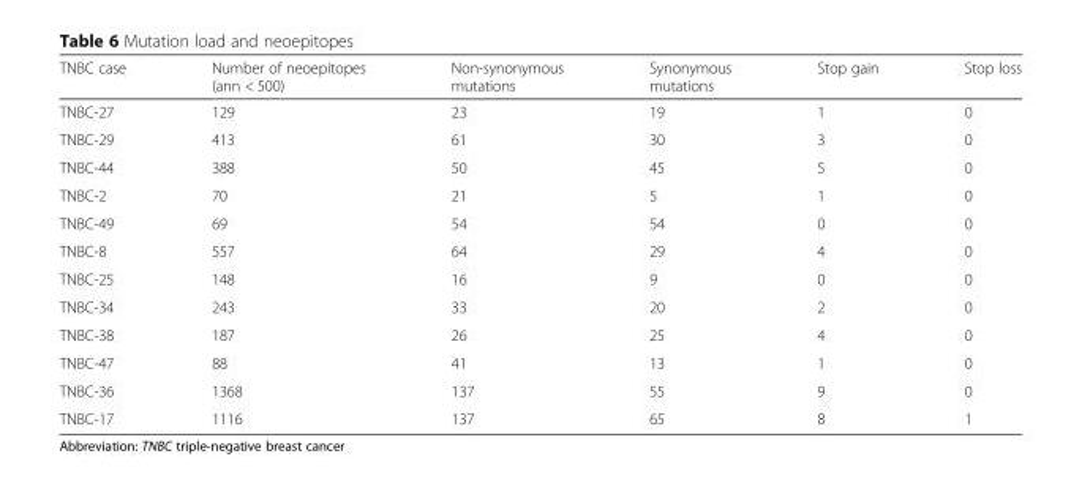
<table><thead><tr><td>TNBC case</td><td>Number of neoepitopes (ann &lt; 500)</td><td>Non-synonymous mutations</td><td>Synonymous mutations</td><td>Stop gain</td><td>Stop loss</td></tr></thead><tbody><tr><td>TNBC-27</td><td>129</td><td>23</td><td>19</td><td>1</td><td>0</td></tr><tr><td>TNBC-29</td><td>413</td><td>61</td><td>30</td><td>3</td><td>0</td></tr><tr><td>TNBC-44</td><td>388</td><td>50</td><td>45</td><td>5</td><td>0</td></tr><tr><td>TNBC-2</td><td>70</td><td>21</td><td>5</td><td>1</td><td>0</td></tr><tr><td>TNBC-49</td><td>69</td><td>54</td><td>54</td><td>0</td><td>0</td></tr><tr><td>TNBC-8</td><td>557</td><td>64</td><td>29</td><td>4</td><td>0</td></tr><tr><td>TNBC-25</td><td>148</td><td>16</td><td>9</td><td>0</td><td>0</td></tr><tr><td>TNBC-34</td><td>243</td><td>33</td><td>20</td><td>2</td><td>0</td></tr><tr><td>TNBC-38</td><td>187</td><td>26</td><td>25</td><td>4</td><td>0</td></tr><tr><td>TNBC-47</td><td>88</td><td>41</td><td>13</td><td>1</td><td>0</td></tr><tr><td>TNBC-36</td><td>1368</td><td>137</td><td>55</td><td>9</td><td>0</td></tr><tr><td>TNBC-17</td><td>1116</td><td>137</td><td>65</td><td>8</td><td>1</td></tr></tbody></table>